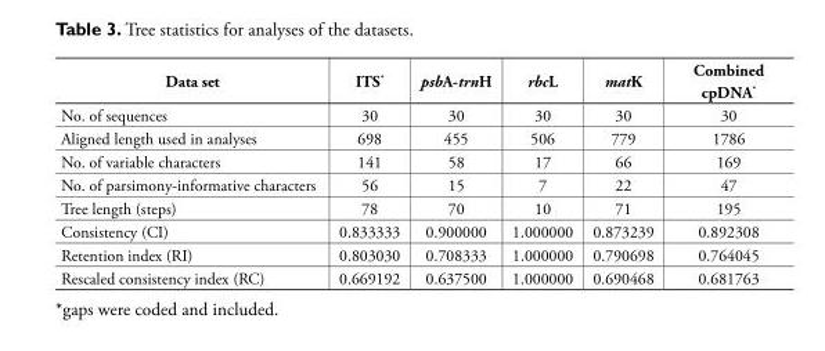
<table><thead><tr><td>Data set</td><td>ITS*</td><td>psbA-trnH</td><td>rbcL</td><td>matK</td><td>Combined cpDNA*</td></tr></thead><tbody><tr><td>No. of sequences</td><td>30</td><td>30</td><td>30</td><td>30</td><td>30</td></tr><tr><td>Aligned length used in analyses</td><td>698</td><td>455</td><td>506</td><td>779</td><td>1786</td></tr><tr><td>No. of variable characters</td><td>141</td><td>58</td><td>17</td><td>66</td><td>169</td></tr><tr><td>No. of parsimony-informative characters</td><td>56</td><td>15</td><td>7</td><td>22</td><td>47</td></tr><tr><td>Tree length (steps)</td><td>78</td><td>70</td><td>10</td><td>71</td><td>195</td></tr><tr><td>Consistency (CI)</td><td>0.833333</td><td>0.900000</td><td>1.000000</td><td>0.873239</td><td>0.892308</td></tr><tr><td>Retention index (RI)</td><td>0.803030</td><td>0.708333</td><td>1.000000</td><td>0.790698</td><td>0.764045</td></tr><tr><td>Rescaled consistency index (RC)</td><td>0.669192</td><td>0.637500</td><td>1.000000</td><td>0.690468</td><td>0.681763</td></tr></tbody></table>